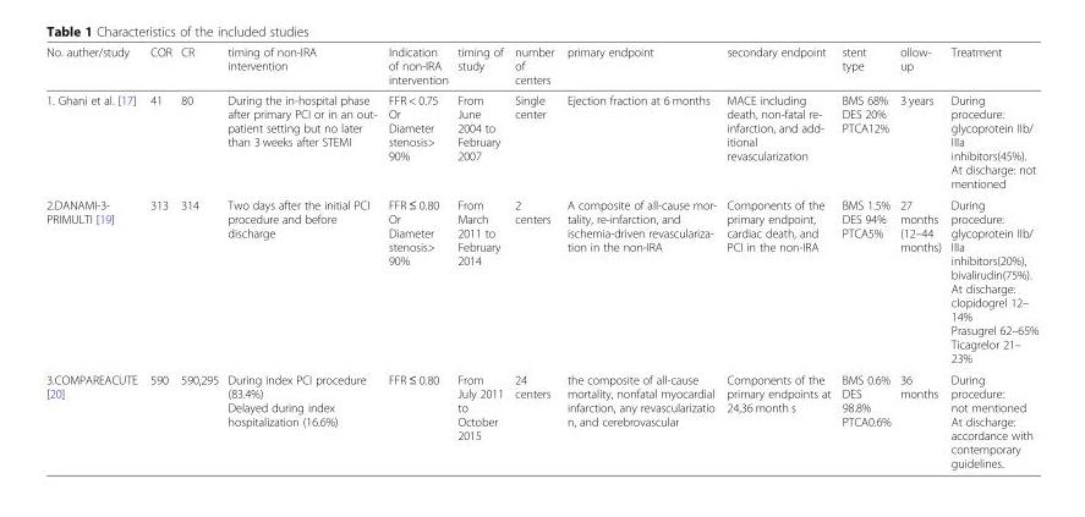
<table><thead><tr><td>No. auther/study</td><td>COR</td><td>CR</td><td>timing of non-IRA intervention</td><td>Indication of non-IRA intervention</td><td>timing of study</td><td>number of centers</td><td>primary endpoint</td><td>secondary endpoint</td><td>stent type</td><td>ollow- up</td><td>Treatment</td></tr></thead><tbody><tr><td>1. Ghani et al. [17]</td><td>41</td><td>80</td><td>During the in-hospital phase after primary PCI or in an out- patient setting but no later than 3 weeks after STEMI</td><td>FFR &lt; 0.75 Or Diameter stenosis&gt; 90%</td><td>From June 2004 to February 2007</td><td>Single center</td><td>Ejection fraction at 6 months</td><td>MACE including death, non-fatal re- infarction, and add- itional revascularization</td><td>BMS 68% DES 20% PTCA12%</td><td>3 years</td><td>During procedure: glycoprotein IIb/ IIIa inhibitors(45%). At discharge: not mentioned</td></tr><tr><td>2.DANAMI-3- PRIMULTI [19]</td><td>313</td><td>314</td><td>Two days after the initial PCI procedure and before discharge</td><td>FFR ≤ 0.80 Or Diameter stenosis&gt; 90%</td><td>From March 2011 to February 2014</td><td>2 centers</td><td>A composite of all-cause mor- tality, re-infarction, and ischemia-driven revasculariza- tion in the non-IRA</td><td>Components of the primary endpoint, cardiac death, and PCI in the non-IRA</td><td>BMS 1.5% DES 94% PTCA5%</td><td>27 months (12–44 months)</td><td>During procedure: glycoprotein IIb/ IIIa inhibitors(20%), bivalirudin(75%). At discharge: clopidogrel 12– 14% Prasugrel 62–65% Ticagrelor 21– 23%</td></tr><tr><td>3.COMPAREACUTE [20]</td><td>590</td><td>590,295</td><td>During index PCI procedure (83.4%) Delayed during index hospitalization (16.6%)</td><td>FFR ≤ 0.80</td><td>From July 2011 to October 2015</td><td>24 centers</td><td>the composite of all-cause mortality, nonfatal myocardial infarction, any revascularizatio n, and cerebrovascular</td><td>Components of the primary endpoints at 24,36 month s</td><td>BMS 0.6% DES 98.8% PTCA0.6%</td><td>36 months</td><td>During procedure: not mentioned At discharge: accordance with contemporary guidelines.</td></tr></tbody></table>